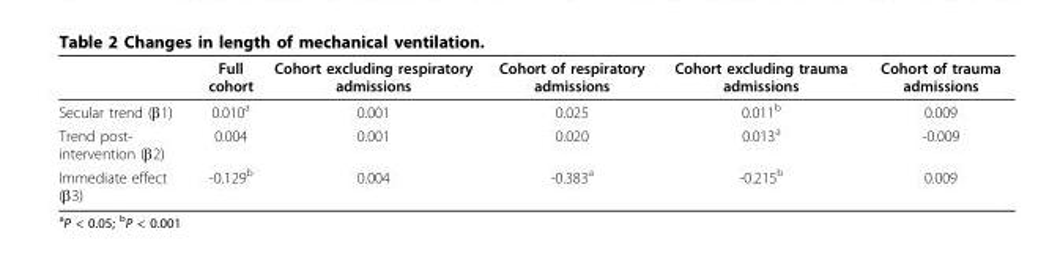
<table><thead><tr><td></td><td>Full cohort</td><td>Cohort excluding respiratory admissions</td><td>Cohort of respiratory admissions</td><td>Cohort excluding trauma admissions</td><td>Cohort of trauma admissions</td></tr></thead><tbody><tr><td>Secular trend (β1)</td><td>0.010<sup>a</sup></td><td>0.001</td><td>0.025</td><td>0.011<sup>b</sup></td><td>0.009</td></tr><tr><td>Trend post- intervention (β2)</td><td>0.004</td><td>0.001</td><td>0.020</td><td>0.013<sup>a</sup></td><td>-0.009</td></tr><tr><td>Immediate effect (β3)</td><td>-0.129<sup>b</sup></td><td>0.004</td><td>-0.383<sup>a</sup></td><td>-0.215<sup>b</sup></td><td>0.009</td></tr></tbody></table>